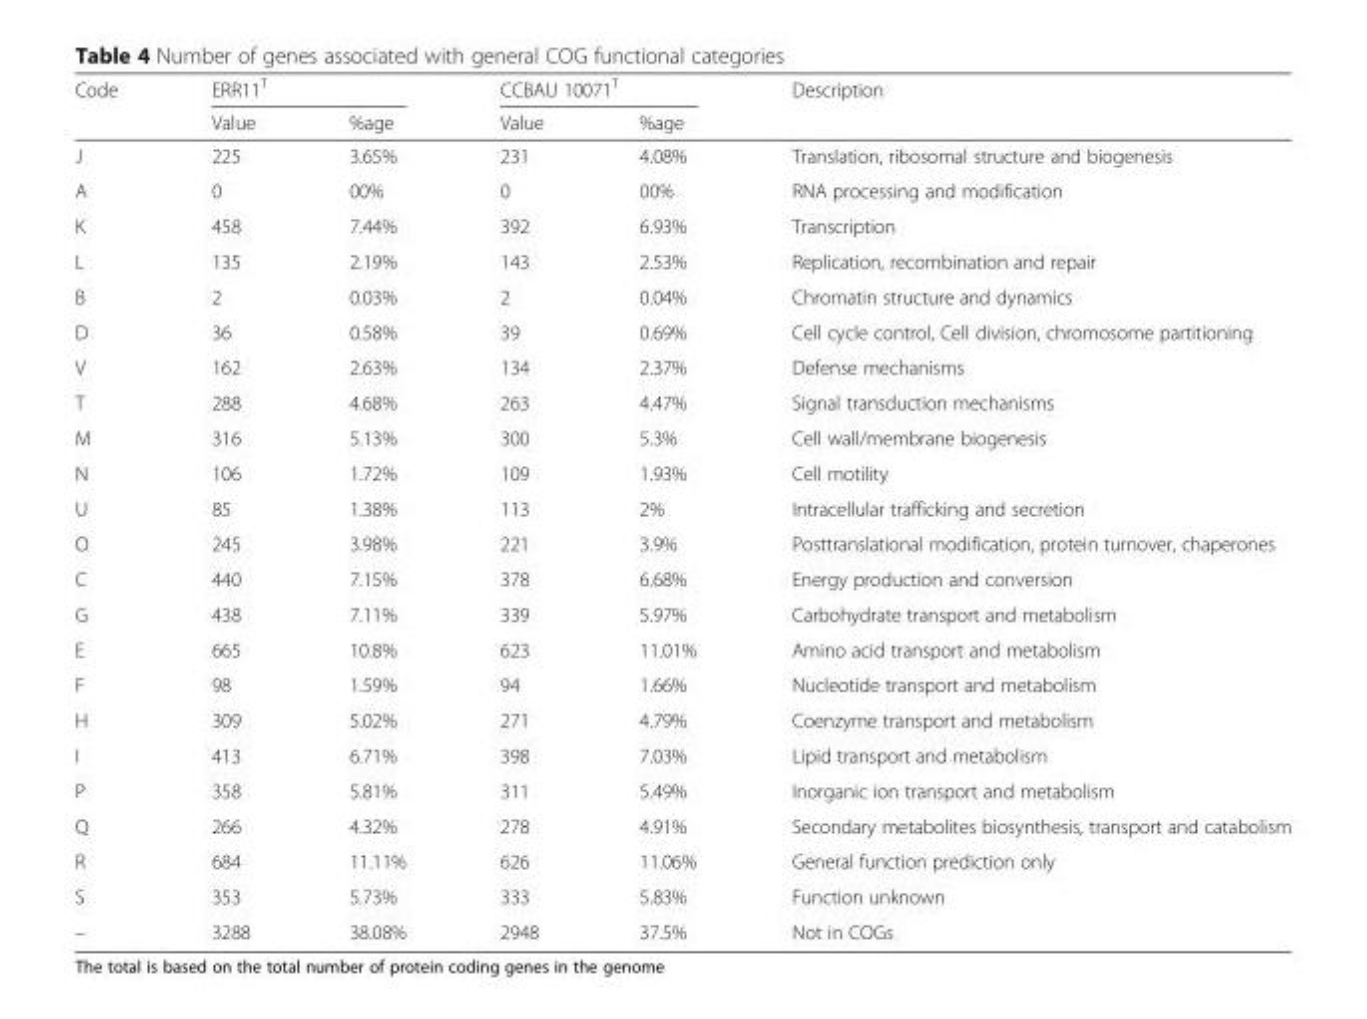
<table><thead><tr><td rowspan="2">Code</td><td colspan="2">ERR11<sup>T</sup></td><td colspan="2">CCBAU 10071<sup>T</sup></td><td rowspan="2">Description</td></tr><tr><td>Value</td><td>%age</td><td>Value</td><td>%age</td></tr></thead><tbody><tr><td>J</td><td>225</td><td>3.65%</td><td>231</td><td>4.08%</td><td>Translation, ribosomal structure and biogenesis</td></tr><tr><td>A</td><td>0</td><td>00%</td><td>0</td><td>00%</td><td>RNA processing and modification</td></tr><tr><td>K</td><td>458</td><td>7.44%</td><td>392</td><td>6.93%</td><td>Transcription</td></tr><tr><td>L</td><td>135</td><td>2.19%</td><td>143</td><td>2.53%</td><td>Replication, recombination and repair</td></tr><tr><td>B</td><td>2</td><td>0.03%</td><td>2</td><td>0.04%</td><td>Chromatin structure and dynamics</td></tr><tr><td>D</td><td>36</td><td>0.58%</td><td>39</td><td>0.69%</td><td>Cell cycle control, Cell division, chromosome partitioning</td></tr><tr><td>V</td><td>162</td><td>2.63%</td><td>134</td><td>2.37%</td><td>Defense mechanisms</td></tr><tr><td>T</td><td>288</td><td>4.68%</td><td>263</td><td>4.47%</td><td>Signal transduction mechanisms</td></tr><tr><td>M</td><td>316</td><td>5.13%</td><td>300</td><td>5.3%</td><td>Cell wall/membrane biogenesis</td></tr><tr><td>N</td><td>106</td><td>1.72%</td><td>109</td><td>1.93%</td><td>Cell motility</td></tr><tr><td>U</td><td>85</td><td>1.38%</td><td>113</td><td>2%</td><td>Intracellular trafficking and secretion</td></tr><tr><td>O</td><td>245</td><td>3.98%</td><td>221</td><td>3.9%</td><td>Posttranslational modification, protein turnover, chaperones</td></tr><tr><td>C</td><td>440</td><td>7.15%</td><td>378</td><td>6.68%</td><td>Energy production and conversion</td></tr><tr><td>G</td><td>438</td><td>7.11%</td><td>339</td><td>5.97%</td><td>Carbohydrate transport and metabolism</td></tr><tr><td>E</td><td>665</td><td>10.8%</td><td>623</td><td>11.01%</td><td>Amino acid transport and metabolism</td></tr><tr><td>F</td><td>98</td><td>1.59%</td><td>94</td><td>1.66%</td><td>Nucleotide transport and metabolism</td></tr><tr><td>H</td><td>309</td><td>5.02%</td><td>271</td><td>4.79%</td><td>Coenzyme transport and metabolism</td></tr><tr><td>I</td><td>413</td><td>6.71%</td><td>398</td><td>7.03%</td><td>Lipid transport and metabolism</td></tr><tr><td>P</td><td>358</td><td>5.81%</td><td>311</td><td>5.49%</td><td>Inorganic ion transport and metabolism</td></tr><tr><td>Q</td><td>266</td><td>4.32%</td><td>278</td><td>4.91%</td><td>Secondary metabolites biosynthesis, transport and catabolism</td></tr><tr><td>R</td><td>684</td><td>11.11%</td><td>626</td><td>11.06%</td><td>General function prediction only</td></tr><tr><td>S</td><td>353</td><td>5.73%</td><td>333</td><td>5.83%</td><td>Function unknown</td></tr><tr><td>–</td><td>3288</td><td>38.08%</td><td>2948</td><td>37.5%</td><td>Not in COGs</td></tr></tbody></table>